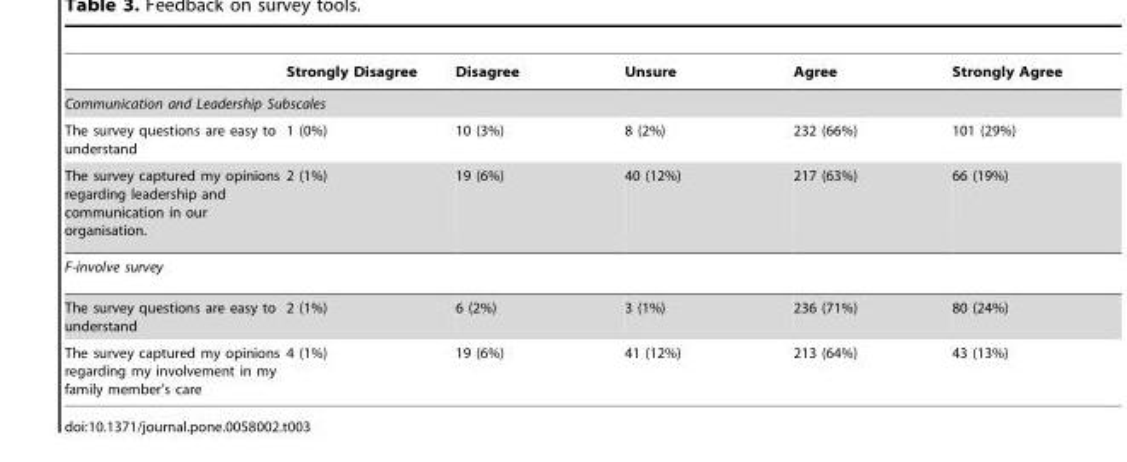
<table><thead><tr><td></td><td>Strongly Disagree</td><td>Disagree</td><td>Unsure</td><td>Agree</td><td>Strongly Agree</td></tr></thead><tbody><tr><td colspan="6">Communication and Leadership Subscales</td></tr><tr><td>The survey questions are easy to understand</td><td>1 (0%)</td><td>10 (3%)</td><td>8 (2%)</td><td>232 (66%)</td><td>101 (29%)</td></tr><tr><td>The survey captured my opinions regarding leadership and communication in our organisation.</td><td>2 (1%)</td><td>19 (6%)</td><td>40 (12%)</td><td>217 (63%)</td><td>66 (19%)</td></tr><tr><td colspan="6">F-involve survey</td></tr><tr><td>The survey questions are easy to understand</td><td>2 (1%)</td><td>6 (2%)</td><td>3 (1%)</td><td>236 (71%)</td><td>80 (24%)</td></tr><tr><td>The survey captured my opinions regarding my involvement in my family member’s care</td><td>4 (1%)</td><td>19 (6%)</td><td>41 (12%)</td><td>213 (64%)</td><td>43 (13%)</td></tr></tbody></table>